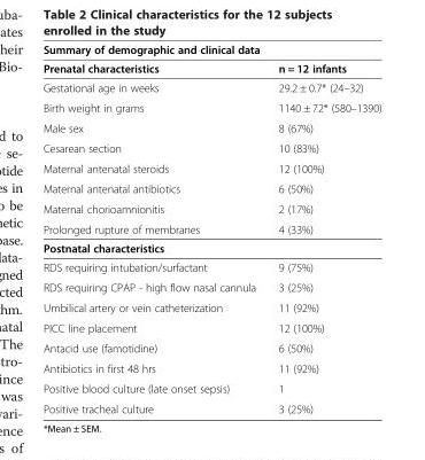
<table><thead><tr><td colspan="2">Summary of demographic and clinical data</td></tr><tr><td>Prenatal characteristics</td><td>n = 12 infants</td></tr></thead><tbody><tr><td>Gestational age in weeks</td><td>29.2 ± 0.7* (24–32)</td></tr><tr><td>Birth weight in grams</td><td>1140 ± 72* (580–1390)</td></tr><tr><td>Male sex</td><td>8 (67%)</td></tr><tr><td>Cesarean section</td><td>10 (83%)</td></tr><tr><td>Maternal antenatal steroids</td><td>12 (100%)</td></tr><tr><td>Maternal antenatal antibiotics</td><td>6 (50%)</td></tr><tr><td>Maternal chorioamnionitis</td><td>2 (17%)</td></tr><tr><td>Prolonged rupture of membranes</td><td>4 (33%)</td></tr><tr><td colspan="2">Postnatal characteristics</td></tr><tr><td>RDS requiring intubation/surfactant</td><td>9 (75%)</td></tr><tr><td>RDS requiring CPAP - high flow nasal cannula</td><td>3 (25%)</td></tr><tr><td>Umbilical artery or vein catheterization</td><td>11 (92%)</td></tr><tr><td>PICC line placement</td><td>12 (100%)</td></tr><tr><td>Antacid use (famotidine)</td><td>6 (50%)</td></tr><tr><td>Antibiotics in first 48 hrs</td><td>11 (92%)</td></tr><tr><td>Positive blood culture (late onset sepsis)</td><td>1</td></tr><tr><td>Positive tracheal culture</td><td>3 (25%)</td></tr></tbody></table>